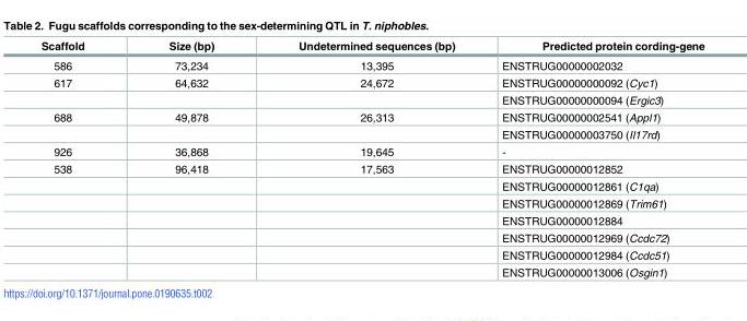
<table><thead><tr><td>Scaffold</td><td>Size (bp)</td><td>Undetermined sequences (bp)</td><td>Predicted protein cording-gene</td></tr></thead><tbody><tr><td>586</td><td>73,234</td><td>13,395</td><td>ENSTRUG00000002032</td></tr><tr><td rowspan="2">617</td><td>64,632</td><td>24,672</td><td>ENSTRUG00000000092 (Cyc1)</td></tr><tr><td></td><td></td><td>ENSTRUG00000000094 (Ergic3)</td></tr><tr><td rowspan="2">688</td><td>49,878</td><td>26,313</td><td>ENSTRUG00000002541 (Appl1)</td></tr><tr><td></td><td></td><td>ENSTRUG00000003750 (Il17rd)</td></tr><tr><td>926</td><td>36,868</td><td>19,645</td><td>-</td></tr><tr><td rowspan="7">538</td><td>96,418</td><td>17,563</td><td>ENSTRUG00000012852</td></tr><tr><td></td><td></td><td>ENSTRUG00000012861 (C1qa)</td></tr><tr><td></td><td></td><td>ENSTRUG00000012869 (Trim61)</td></tr><tr><td></td><td></td><td>ENSTRUG00000012884</td></tr><tr><td></td><td></td><td>ENSTRUG00000012969 (Ccdc72)</td></tr><tr><td></td><td></td><td>ENSTRUG00000012984 (Ccdc51)</td></tr><tr><td></td><td></td><td>ENSTRUG00000013006 (Osgin1)</td></tr></tbody></table>